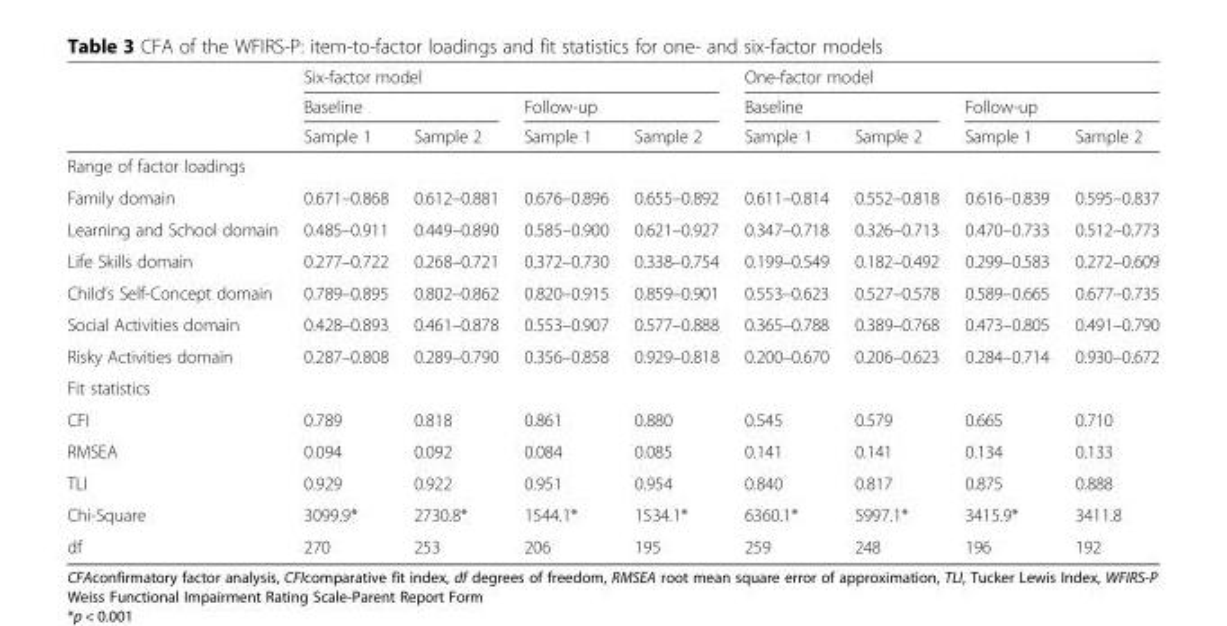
<table><thead><tr><td rowspan="3"></td><td colspan="4">Six-factor model</td><td colspan="4">One-factor model</td></tr><tr><td colspan="2">Baseline</td><td colspan="2">Follow-up</td><td colspan="2">Baseline</td><td colspan="2">Follow-up</td></tr><tr><td>Sample 1</td><td>Sample 2</td><td>Sample 1</td><td>Sample 2</td><td>Sample 1</td><td>Sample 2</td><td>Sample 1</td><td>Sample 2</td></tr></thead><tbody><tr><td colspan="9">Range of factor loadings</td></tr><tr><td>Family domain</td><td>0.671–0.868</td><td>0.612–0.881</td><td>0.676–0.896</td><td>0.655–0.892</td><td>0.611–0.814</td><td>0.552–0.818</td><td>0.616–0.839</td><td>0.595–0.837</td></tr><tr><td>Learning and School domain</td><td>0.485–0.911</td><td>0.449–0.890</td><td>0.585–0.900</td><td>0.621–0.927</td><td>0.347–0.718</td><td>0.326–0.713</td><td>0.470–0.733</td><td>0.512–0.773</td></tr><tr><td>Life Skills domain</td><td>0.277–0.722</td><td>0.268–0.721</td><td>0.372–0.730</td><td>0.338–0.754</td><td>0.199–0.549</td><td>0.182–0.492</td><td>0.299–0.583</td><td>0.272–0.609</td></tr><tr><td>Child’s Self-Concept domain</td><td>0.789–0.895</td><td>0.802–0.862</td><td>0.820–0.915</td><td>0.859–0.901</td><td>0.553–0.623</td><td>0.527–0.578</td><td>0.589–0.665</td><td>0.677–0.735</td></tr><tr><td>Social Activities domain</td><td>0.428–0.893</td><td>0.461–0.878</td><td>0.553–0.907</td><td>0.577–0.888</td><td>0.365–0.788</td><td>0.389–0.768</td><td>0.473–0.805</td><td>0.491–0.790</td></tr><tr><td>Risky Activities domain</td><td>0.287–0.808</td><td>0.289–0.790</td><td>0.356–0.858</td><td>0.929–0.818</td><td>0.200–0.670</td><td>0.206–0.623</td><td>0.284–0.714</td><td>0.930–0.672</td></tr><tr><td colspan="9">Fit statistics</td></tr><tr><td>CFI</td><td>0.789</td><td>0.818</td><td>0.861</td><td>0.880</td><td>0.545</td><td>0.579</td><td>0.665</td><td>0.710</td></tr><tr><td>RMSEA</td><td>0.094</td><td>0.092</td><td>0.084</td><td>0.085</td><td>0.141</td><td>0.141</td><td>0.134</td><td>0.133</td></tr><tr><td>TLI</td><td>0.929</td><td>0.922</td><td>0.951</td><td>0.954</td><td>0.840</td><td>0.817</td><td>0.875</td><td>0.888</td></tr><tr><td>Chi-Square</td><td>3099.9*</td><td>2730.8*</td><td>1544.1*</td><td>1534.1*</td><td>6360.1*</td><td>5997.1*</td><td>3415.9*</td><td>3411.8</td></tr><tr><td>df</td><td>270</td><td>253</td><td>206</td><td>195</td><td>259</td><td>248</td><td>196</td><td>192</td></tr></tbody></table>